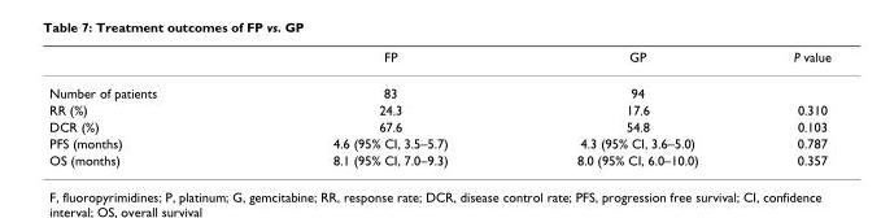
<table><thead><tr><td></td><td>FP</td><td>GP</td><td>P value</td></tr></thead><tbody><tr><td>Number of patients</td><td>83</td><td>94</td><td></td></tr><tr><td>RR (%)</td><td>24.3</td><td>17.6</td><td>0.310</td></tr><tr><td>DCR (%)</td><td>67.6</td><td>54.8</td><td>0.103</td></tr><tr><td>PFS (months)</td><td>4.6 (95% CI, 3.5–5.7)</td><td>4.3 (95% CI, 3.6–5.0)</td><td>0.787</td></tr><tr><td>OS (months)</td><td>8.1 (95% CI, 7.0–9.3)</td><td>8.0 (95% CI, 6.0–10.0)</td><td>0.357</td></tr></tbody></table>